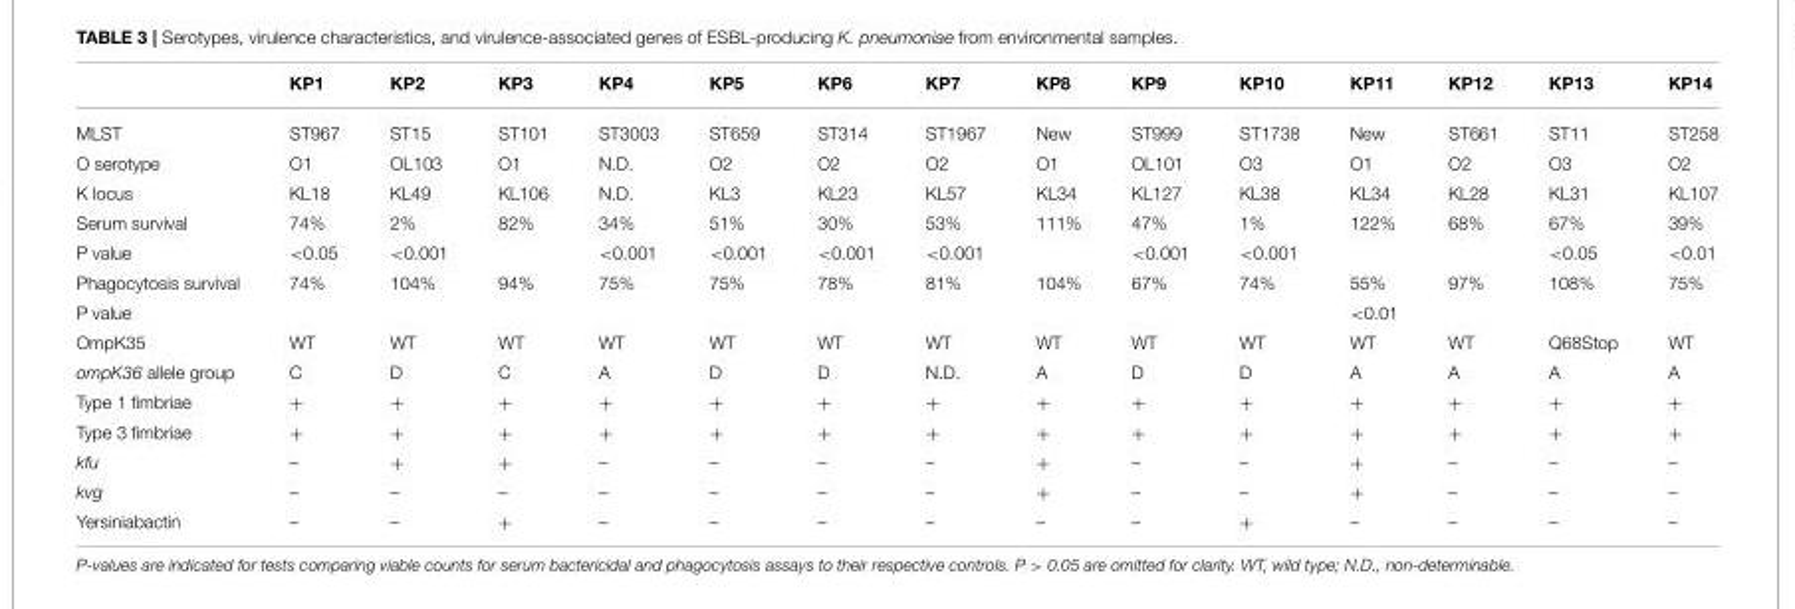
<table><thead><tr><td></td><td>KP1</td><td>KP2</td><td>KP3</td><td>KP4</td><td>KP5</td><td>KP6</td><td>KP7</td><td>KP8</td><td>KP9</td><td>KP10</td><td>KP11</td><td>KP12</td><td>KP13</td><td>KP14</td></tr></thead><tbody><tr><td>MLST</td><td>ST967</td><td>ST15</td><td>ST101</td><td>ST3003</td><td>ST659</td><td>ST314</td><td>ST1967</td><td>New</td><td>ST999</td><td>ST1738</td><td>New</td><td>ST661</td><td>ST11</td><td>ST258</td></tr><tr><td>O serotype</td><td>O1</td><td>OL103</td><td>O1</td><td>N.D.</td><td>O2</td><td>O2</td><td>O2</td><td>O1</td><td>OL101</td><td>O3</td><td>O1</td><td>O2</td><td>O3</td><td>O2</td></tr><tr><td>K locus</td><td>KL18</td><td>KL49</td><td>KL106</td><td>N.D.</td><td>KL3</td><td>KL23</td><td>KL57</td><td>KL34</td><td>KL127</td><td>KL38</td><td>KL34</td><td>KL28</td><td>KL31</td><td>KL107</td></tr><tr><td>Serum survival</td><td>74%</td><td>2%</td><td>82%</td><td>34%</td><td>51%</td><td>30%</td><td>53%</td><td>111%</td><td>47%</td><td>1%</td><td>122%</td><td>68%</td><td>67%</td><td>39%</td></tr><tr><td>P value</td><td>&lt;0.05</td><td>&lt;0.001</td><td></td><td>&lt;0.001</td><td>&lt;0.001</td><td>&lt;0.001</td><td>&lt;0.001</td><td></td><td>&lt;0.001</td><td>&lt;0.001</td><td></td><td></td><td>&lt;0.05</td><td>&lt;0.01</td></tr><tr><td>Phagocytosis survival</td><td>74%</td><td>104%</td><td>94%</td><td>75%</td><td>75%</td><td>78%</td><td>81%</td><td>104%</td><td>67%</td><td>74%</td><td>55%</td><td>97%</td><td>108%</td><td>75%</td></tr><tr><td>P value</td><td></td><td></td><td></td><td></td><td></td><td></td><td></td><td></td><td></td><td></td><td>&lt;0.01</td><td></td><td></td><td></td></tr><tr><td>OmpK35</td><td>WT</td><td>WT</td><td>WT</td><td>WT</td><td>WT</td><td>WT</td><td>WT</td><td>WT</td><td>WT</td><td>WT</td><td>WT</td><td>WT</td><td>Q68Stop</td><td>WT</td></tr><tr><td>ompK36 allele group</td><td>C</td><td>D</td><td>C</td><td>A</td><td>D</td><td>D</td><td>N.D.</td><td>A</td><td>D</td><td>D</td><td>A</td><td>A</td><td>A</td><td>A</td></tr><tr><td>Type 1 fimbriae</td><td>+</td><td>+</td><td>+</td><td>+</td><td>+</td><td>+</td><td>+</td><td>+</td><td>+</td><td>+</td><td>+</td><td>+</td><td>+</td><td>+</td></tr><tr><td>Type 3 fimbriae</td><td>+</td><td>+</td><td>+</td><td>+</td><td>+</td><td>+</td><td>+</td><td>+</td><td>+</td><td>+</td><td>+</td><td>+</td><td>+</td><td>+</td></tr><tr><td>kfu</td><td>–</td><td>+</td><td>+</td><td>–</td><td>–</td><td>–</td><td>–</td><td>+</td><td>–</td><td>–</td><td>+</td><td>–</td><td>–</td><td>–</td></tr><tr><td>kvg</td><td>–</td><td>–</td><td>–</td><td>–</td><td>–</td><td>–</td><td>–</td><td>+</td><td>–</td><td>–</td><td>+</td><td>–</td><td>–</td><td>–</td></tr><tr><td>Yersiniabactin</td><td>–</td><td>–</td><td>+</td><td>–</td><td>–</td><td>–</td><td>–</td><td>–</td><td>–</td><td>+</td><td>–</td><td>–</td><td>–</td><td>–</td></tr></tbody></table>